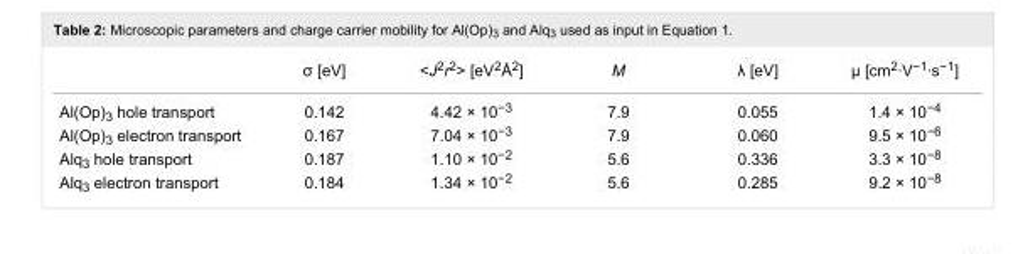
<table><thead><tr><td></td><td>σ [eV]</td><td>&lt;J<sup>2</sup>r<sup>2</sup>&gt; [eV<sup>2</sup>Å<sup>2</sup>]</td><td>M</td><td>λ [eV]</td><td>µ [cm<sup>2</sup>·V<sup>−1</sup>·s<sup>−1</sup>]</td></tr></thead><tbody><tr><td>Al(Op)<sub>3</sub> hole transport</td><td>0.142</td><td>4.42 × 10<sup>−3</sup></td><td>7.9</td><td>0.055</td><td>1.4 × 10<sup>−4</sup></td></tr><tr><td>Al(Op)<sub>3</sub> electron transport</td><td>0.167</td><td>7.04 × 10<sup>−3</sup></td><td>7.9</td><td>0.060</td><td>9.5 × 10<sup>−6</sup></td></tr><tr><td>Alq<sub>3</sub> hole transport</td><td>0.187</td><td>1.10 × 10<sup>−2</sup></td><td>5.6</td><td>0.336</td><td>3.3 × 10<sup>−8</sup></td></tr><tr><td>Alq<sub>3</sub> electron transport</td><td>0.184</td><td>1.34 × 10<sup>−2</sup></td><td>5.6</td><td>0.285</td><td>9.2 × 10<sup>−8</sup></td></tr></tbody></table>